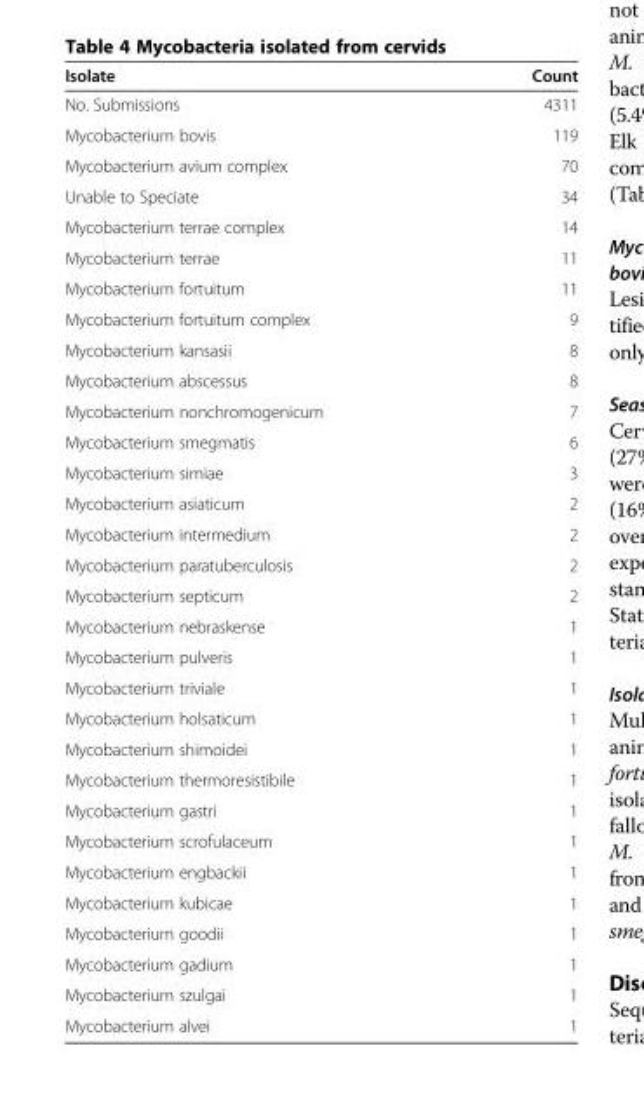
<table><thead><tr><td>Isolate</td><td>Count</td></tr></thead><tbody><tr><td>No. Submissions</td><td>4311</td></tr><tr><td>Mycobacterium bovis</td><td>119</td></tr><tr><td>Mycobacterium avium complex</td><td>70</td></tr><tr><td>Unable to Speciate</td><td>34</td></tr><tr><td>Mycobacterium terrae complex</td><td>14</td></tr><tr><td>Mycobacterium terrae</td><td>11</td></tr><tr><td>Mycobacterium fortuitum</td><td>11</td></tr><tr><td>Mycobacterium fortuitum complex</td><td>9</td></tr><tr><td>Mycobacterium kansasii</td><td>8</td></tr><tr><td>Mycobacterium abscessus</td><td>8</td></tr><tr><td>Mycobacterium nonchromogenicum</td><td>7</td></tr><tr><td>Mycobacterium smegmatis</td><td>6</td></tr><tr><td>Mycobacterium simiae</td><td>3</td></tr><tr><td>Mycobacterium asiaticum</td><td>2</td></tr><tr><td>Mycobacterium intermedium</td><td>2</td></tr><tr><td>Mycobacterium paratuberculosis</td><td>2</td></tr><tr><td>Mycobacterium septicum</td><td>2</td></tr><tr><td>Mycobacterium nebraskense</td><td>1</td></tr><tr><td>Mycobacterium pulveris</td><td>1</td></tr><tr><td>Mycobacterium triviale</td><td>1</td></tr><tr><td>Mycobacterium holsaticum</td><td>1</td></tr><tr><td>Mycobacterium shimoidei</td><td>1</td></tr><tr><td>Mycobacterium thermoresistibile</td><td>1</td></tr><tr><td>Mycobacterium gastri</td><td>1</td></tr><tr><td>Mycobacterium scrofulaceum</td><td>1</td></tr><tr><td>Mycobacterium engbackii</td><td>1</td></tr><tr><td>Mycobacterium kubicae</td><td>1</td></tr><tr><td>Mycobacterium goodii</td><td>1</td></tr><tr><td>Mycobacterium gadium</td><td>1</td></tr><tr><td>Mycobacterium szulgai</td><td>1</td></tr><tr><td>Mycobacterium alvei</td><td>1</td></tr></tbody></table>